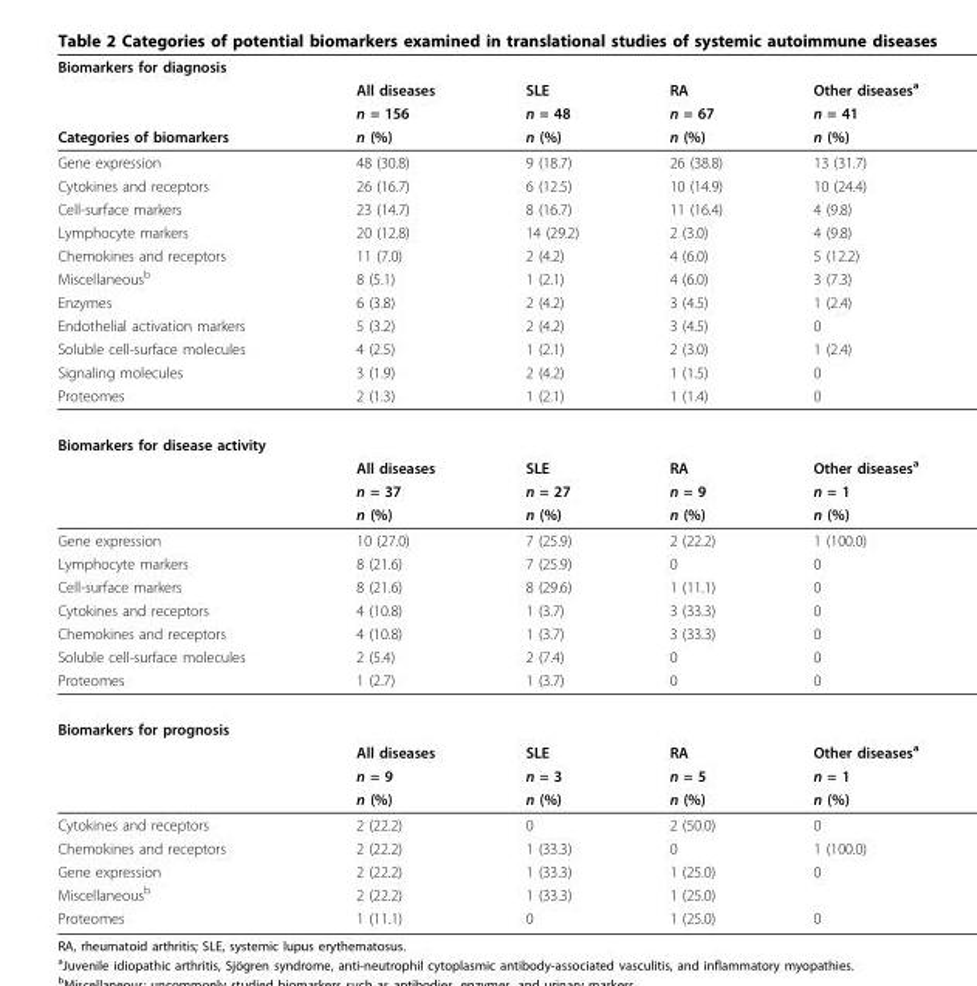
<table><thead><tr><td rowspan="4">Biomarkers for diagnosis Categories of biomarkers</td><td rowspan="4">All diseases n = 156 n (%)</td><td rowspan="4">SLE n = 48 n (%)</td><td rowspan="4">RA n = 67 n (%)</td><td rowspan="4">Other diseasesa n = 41 n (%)</td></tr><tr></tr><tr></tr><tr></tr></thead><tbody><tr><td>Gene expression</td><td>48 (30.8)</td><td>9 (18.7)</td><td>26 (38.8)</td><td>13 (31.7)</td></tr><tr><td>Cytokines and receptors</td><td>26 (16.7)</td><td>6 (12.5)</td><td>10 (14.9)</td><td>10 (24.4)</td></tr><tr><td>Cell-surface markers</td><td>23 (14.7)</td><td>8 (16.7)</td><td>11 (16.4)</td><td>4 (9.8)</td></tr><tr><td>Lymphocyte markers</td><td>20 (12.8)</td><td>14 (29.2)</td><td>2 (3.0)</td><td>4 (9.8)</td></tr><tr><td>Chemokines and receptors</td><td>11 (7.0)</td><td>2 (4.2)</td><td>4 (6.0)</td><td>5 (12.2)</td></tr><tr><td>Miscellaneousb</td><td>8 (5.1)</td><td>1 (2.1)</td><td>4 (6.0)</td><td>3 (7.3)</td></tr><tr><td>Enzymes</td><td>6 (3.8)</td><td>2 (4.2)</td><td>3 (4.5)</td><td>1 (2.4)</td></tr><tr><td>Endothelial activation markers</td><td>5 (3.2)</td><td>2 (4.2)</td><td>3 (4.5)</td><td>0</td></tr><tr><td>Soluble cell-surface molecules</td><td>4 (2.5)</td><td>1 (2.1)</td><td>2 (3.0)</td><td>1 (2.4)</td></tr><tr><td>Signaling molecules</td><td>3 (1.9)</td><td>2 (4.2)</td><td>1 (1.5)</td><td>0</td></tr><tr><td>Proteomes</td><td>2 (1.3)</td><td>1 (2.1)</td><td>1 (1.4)</td><td>0</td></tr><tr><td colspan="5">Biomarkers for disease activity</td></tr><tr><td></td><td>All diseases</td><td>SLE</td><td>RA</td><td>Other diseases<sup>a</sup></td></tr><tr><td></td><td>n = 37</td><td>n = 27</td><td>n = 9</td><td>n = 1</td></tr><tr><td></td><td>n (%)</td><td>n (%)</td><td>n (%)</td><td>n (%)</td></tr><tr><td>Gene expression</td><td>10 (27.0)</td><td>7 (25.9)</td><td>2 (22.2)</td><td>1 (100.0)</td></tr><tr><td>Lymphocyte markers</td><td>8 (21.6)</td><td>7 (25.9)</td><td>0</td><td>0</td></tr><tr><td>Cell-surface markers</td><td>8 (21.6)</td><td>8 (29.6)</td><td>1 (11.1)</td><td>0</td></tr><tr><td>Cytokines and receptors</td><td>4 (10.8)</td><td>1 (3.7)</td><td>3 (33.3)</td><td>0</td></tr><tr><td>Chemokines and receptors</td><td>4 (10.8)</td><td>1 (3.7)</td><td>3 (33.3)</td><td>0</td></tr><tr><td>Soluble cell-surface molecules</td><td>2 (5.4)</td><td>2 (7.4)</td><td>0</td><td>0</td></tr><tr><td>Proteomes</td><td>1 (2.7)</td><td>1 (3.7)</td><td>0</td><td>0</td></tr><tr><td colspan="5">Biomarkers for prognosis</td></tr><tr><td></td><td>All diseases</td><td>SLE</td><td>RA</td><td>Other diseases<sup>a</sup></td></tr><tr><td></td><td>n = 9</td><td>n = 3</td><td>n = 5</td><td>n = 1</td></tr><tr><td></td><td>n (%)</td><td>n (%)</td><td>n (%)</td><td>n (%)</td></tr><tr><td>Cytokines and receptors</td><td>2 (22.2)</td><td>0</td><td>2 (50.0)</td><td>0</td></tr><tr><td>Chemokines and receptors</td><td>2 (22.2)</td><td>1 (33.3)</td><td>0</td><td>1 (100.0)</td></tr><tr><td>Gene expression</td><td>2 (22.2)</td><td>1 (33.3)</td><td>1 (25.0)</td><td>0</td></tr><tr><td>Miscellaneousb</td><td>2 (22.2)</td><td>1 (33.3)</td><td>1 (25.0)</td><td></td></tr><tr><td>Proteomes</td><td>1 (11.1)</td><td>0</td><td>1 (25.0)</td><td>0</td></tr></tbody></table>